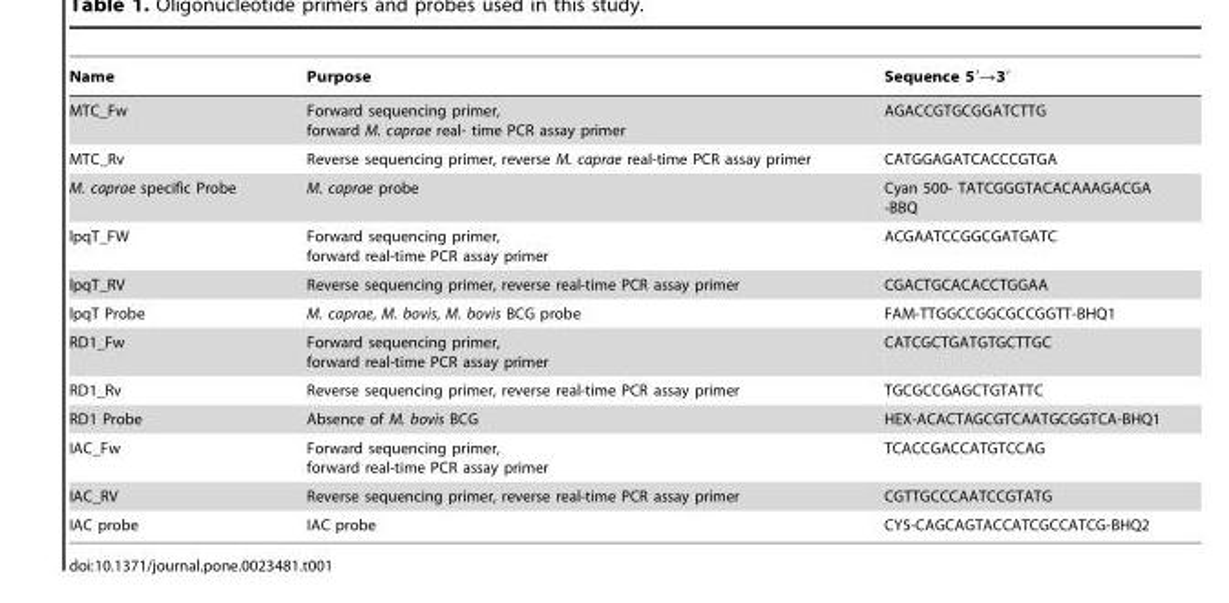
<table><thead><tr><td>Name</td><td>Purpose</td><td>Sequence 5′→3′</td></tr></thead><tbody><tr><td>MTC_Fw</td><td>Forward sequencing primer, forward M. caprae real- time PCR assay primer</td><td>AGACCGTGCGGATCTTG</td></tr><tr><td>MTC_Rv</td><td>Reverse sequencing primer, reverse M. caprae real-time PCR assay primer</td><td>CATGGAGATCACCCGTGA</td></tr><tr><td>M. caprae specific Probe</td><td>M. caprae probe</td><td>Cyan 500- TATCGGGTACACAAAGACGA -BBQ</td></tr><tr><td>lpqT_FW</td><td>Forward sequencing primer, forward real-time PCR assay primer</td><td>ACGAATCCGGCGATGATC</td></tr><tr><td>lpqT_RV</td><td>Reverse sequencing primer, reverse real-time PCR assay primer</td><td>CGACTGCACACCTGGAA</td></tr><tr><td>lpqT Probe</td><td>M. caprae, M. bovis, M. bovis BCG probe</td><td>FAM-TTGGCCGGCGCCGGTT-BHQ1</td></tr><tr><td>RD1_Fw</td><td>Forward sequencing primer, forward real-time PCR assay primer</td><td>CATCGCTGATGTGCTTGC</td></tr><tr><td>RD1_Rv</td><td>Reverse sequencing primer, reverse real-time PCR assay primer</td><td>TGCGCCGAGCTGTATTC</td></tr><tr><td>RD1 Probe</td><td>Absence of M. bovis BCG</td><td>HEX-ACACTAGCGTCAATGCGGTCA-BHQ1</td></tr><tr><td>IAC_Fw</td><td>Forward sequencing primer, forward real-time PCR assay primer</td><td>TCACCGACCATGTCCAG</td></tr><tr><td>IAC_RV</td><td>Reverse sequencing primer, reverse real-time PCR assay primer</td><td>CGTTGCCCAATCCGTATG</td></tr><tr><td>IAC probe</td><td>IAC probe</td><td>CY5-CAGCAGTACCATCGCCATCG-BHQ2</td></tr></tbody></table>